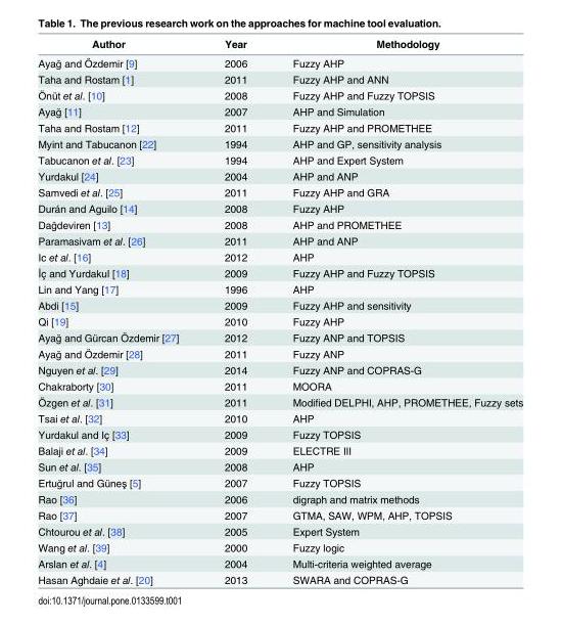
<table><thead><tr><td>Author</td><td>Year</td><td>Methodology</td></tr></thead><tbody><tr><td>Ayağ and Özdemir [9]</td><td>2006</td><td>Fuzzy AHP</td></tr><tr><td>Taha and Rostam [1]</td><td>2011</td><td>Fuzzy AHP and ANN</td></tr><tr><td>Önüt et al. [10]</td><td>2008</td><td>Fuzzy AHP and Fuzzy TOPSIS</td></tr><tr><td>Ayağ [11]</td><td>2007</td><td>AHP and Simulation</td></tr><tr><td>Taha and Rostam [12]</td><td>2011</td><td>Fuzzy AHP and PROMETHEE</td></tr><tr><td>Myint and Tabucanon [22]</td><td>1994</td><td>AHP and GP, sensitivity analysis</td></tr><tr><td>Tabucanon et al. [23]</td><td>1994</td><td>AHP and Expert System</td></tr><tr><td>Yurdakul [24]</td><td>2004</td><td>AHP and ANP</td></tr><tr><td>Samvedi et al. [25]</td><td>2011</td><td>Fuzzy AHP and GRA</td></tr><tr><td>Durán and Aguilo [14]</td><td>2008</td><td>Fuzzy AHP</td></tr><tr><td>Dağdeviren [13]</td><td>2008</td><td>AHP and PROMETHEE</td></tr><tr><td>Paramasivam et al. [26]</td><td>2011</td><td>AHP and ANP</td></tr><tr><td>Ic et al. [16]</td><td>2012</td><td>AHP</td></tr><tr><td>İç and Yurdakul [18]</td><td>2009</td><td>Fuzzy AHP and Fuzzy TOPSIS</td></tr><tr><td>Lin and Yang [17]</td><td>1996</td><td>AHP</td></tr><tr><td>Abdi [15]</td><td>2009</td><td>Fuzzy AHP and sensitivity</td></tr><tr><td>Qi [19]</td><td>2010</td><td>Fuzzy AHP</td></tr><tr><td>Ayağ and Gürcan Özdemir [27]</td><td>2012</td><td>Fuzzy ANP and TOPSIS</td></tr><tr><td>Ayağ and Özdemir [28]</td><td>2011</td><td>Fuzzy ANP</td></tr><tr><td>Nguyen et al. [29]</td><td>2014</td><td>Fuzzy ANP and COPRAS-G</td></tr><tr><td>Chakraborty [30]</td><td>2011</td><td>MOORA</td></tr><tr><td>Özgen et al. [31]</td><td>2011</td><td>Modified DELPHI, AHP, PROMETHEE, Fuzzy sets</td></tr><tr><td>Tsai et al. [32]</td><td>2010</td><td>AHP</td></tr><tr><td>Yurdakul and Iç [33]</td><td>2009</td><td>Fuzzy TOPSIS</td></tr><tr><td>Balaji et al. [34]</td><td>2009</td><td>ELECTRE III</td></tr><tr><td>Sun et al. [35]</td><td>2008</td><td>AHP</td></tr><tr><td>Ertuğrul and Güneş [5]</td><td>2007</td><td>Fuzzy TOPSIS</td></tr><tr><td>Rao [36]</td><td>2006</td><td>digraph and matrix methods</td></tr><tr><td>Rao [37]</td><td>2007</td><td>GTMA, SAW, WPM, AHP, TOPSIS</td></tr><tr><td>Chtourou et al. [38]</td><td>2005</td><td>Expert System</td></tr><tr><td>Wang et al. [39]</td><td>2000</td><td>Fuzzy logic</td></tr><tr><td>Arslan et al. [4]</td><td>2004</td><td>Multi-criteria weighted average</td></tr><tr><td>Hasan Aghdaie et al. [20]</td><td>2013</td><td>SWARA and COPRAS-G</td></tr></tbody></table>